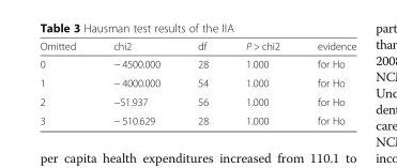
<table><thead><tr><td>Omitted</td><td>chi2</td><td>df</td><td>P &gt; chi2</td><td>evidence</td></tr></thead><tbody><tr><td>0</td><td>− 4500.000</td><td>28</td><td>1.000</td><td>for Ho</td></tr><tr><td>1</td><td>− 4000.000</td><td>54</td><td>1.000</td><td>for Ho</td></tr><tr><td>2</td><td>−51.937</td><td>56</td><td>1.000</td><td>for Ho</td></tr><tr><td>3</td><td>− 510.629</td><td>28</td><td>1.000</td><td>for Ho</td></tr></tbody></table>